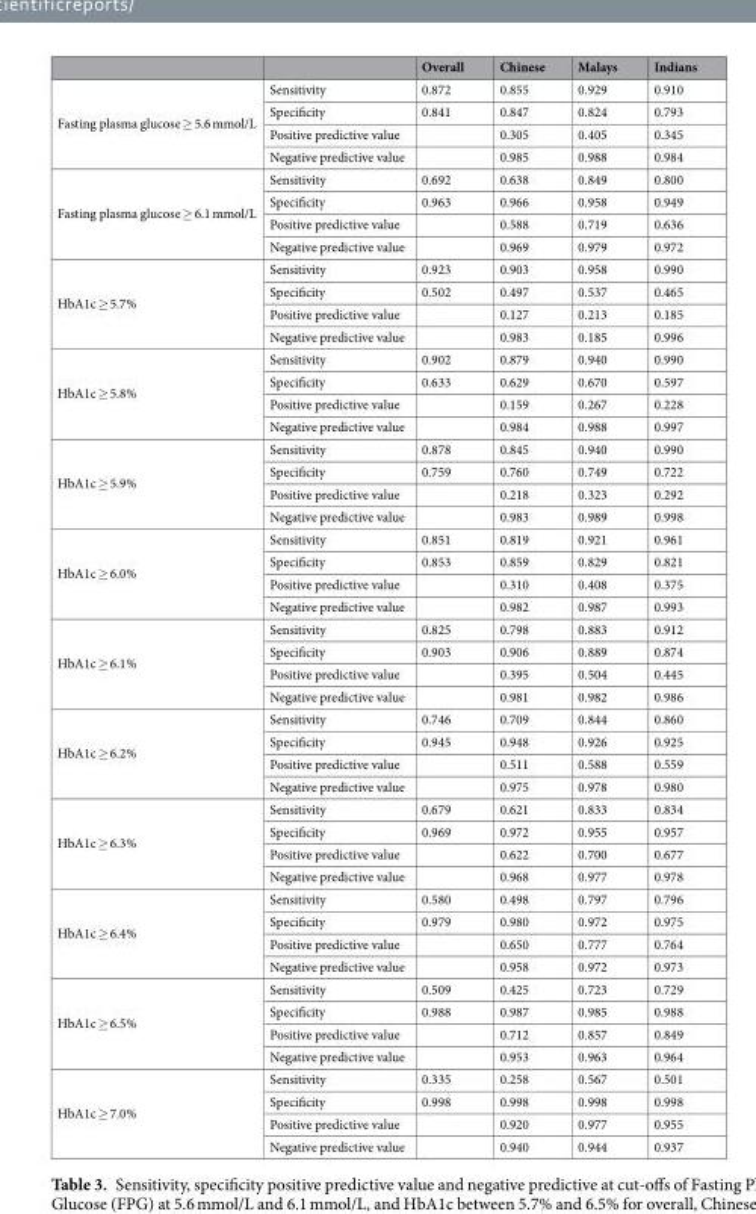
<table><thead><tr><td></td><td></td><td>Overall</td><td>Chinese</td><td>Malays</td><td>Indians</td></tr></thead><tbody><tr><td rowspan="4">Fasting plasma glucose ≥ 5.6 mmol/L</td><td>Sensitivity</td><td>0.872</td><td>0.855</td><td>0.929</td><td>0.910</td></tr><tr><td>Specificity</td><td>0.841</td><td>0.847</td><td>0.824</td><td>0.793</td></tr><tr><td>Positive predictive value</td><td></td><td>0.305</td><td>0.405</td><td>0.345</td></tr><tr><td>Negative predictive value</td><td></td><td>0.985</td><td>0.988</td><td>0.984</td></tr><tr><td rowspan="4">Fasting plasma glucose ≥ 6.1 mmol/L</td><td>Sensitivity</td><td>0.692</td><td>0.638</td><td>0.849</td><td>0.800</td></tr><tr><td>Specificity</td><td>0.963</td><td>0.966</td><td>0.958</td><td>0.949</td></tr><tr><td>Positive predictive value</td><td></td><td>0.588</td><td>0.719</td><td>0.636</td></tr><tr><td>Negative predictive value</td><td></td><td>0.969</td><td>0.979</td><td>0.972</td></tr><tr><td rowspan="4">HbA1c ≥ 5.7%</td><td>Sensitivity</td><td>0.923</td><td>0.903</td><td>0.958</td><td>0.990</td></tr><tr><td>Specificity</td><td>0.502</td><td>0.497</td><td>0.537</td><td>0.465</td></tr><tr><td>Positive predictive value</td><td></td><td>0.127</td><td>0.213</td><td>0.185</td></tr><tr><td>Negative predictive value</td><td></td><td>0.983</td><td>0.185</td><td>0.996</td></tr><tr><td rowspan="4">HbA1c ≥ 5.8%</td><td>Sensitivity</td><td>0.902</td><td>0.879</td><td>0.940</td><td>0.990</td></tr><tr><td>Specificity</td><td>0.633</td><td>0.629</td><td>0.670</td><td>0.597</td></tr><tr><td>Positive predictive value</td><td></td><td>0.159</td><td>0.267</td><td>0.228</td></tr><tr><td>Negative predictive value</td><td></td><td>0.984</td><td>0.988</td><td>0.997</td></tr><tr><td rowspan="4">HbA1c ≥ 5.9%</td><td>Sensitivity</td><td>0.878</td><td>0.845</td><td>0.940</td><td>0.990</td></tr><tr><td>Specificity</td><td>0.759</td><td>0.760</td><td>0.749</td><td>0.722</td></tr><tr><td>Positive predictive value</td><td></td><td>0.218</td><td>0.323</td><td>0.292</td></tr><tr><td>Negative predictive value</td><td></td><td>0.983</td><td>0.989</td><td>0.998</td></tr><tr><td rowspan="4">HbA1c ≥ 6.0%</td><td>Sensitivity</td><td>0.851</td><td>0.819</td><td>0.921</td><td>0.961</td></tr><tr><td>Specificity</td><td>0.853</td><td>0.859</td><td>0.829</td><td>0.821</td></tr><tr><td>Positive predictive value</td><td></td><td>0.310</td><td>0.408</td><td>0.375</td></tr><tr><td>Negative predictive value</td><td></td><td>0.982</td><td>0.987</td><td>0.993</td></tr><tr><td rowspan="4">HbA1c ≥ 6.1%</td><td>Sensitivity</td><td>0.825</td><td>0.798</td><td>0.883</td><td>0.912</td></tr><tr><td>Specificity</td><td>0.903</td><td>0.906</td><td>0.889</td><td>0.874</td></tr><tr><td>Positive predictive value</td><td></td><td>0.395</td><td>0.504</td><td>0.445</td></tr><tr><td>Negative predictive value</td><td></td><td>0.981</td><td>0.982</td><td>0.986</td></tr><tr><td rowspan="4">HbA1c ≥ 6.2%</td><td>Sensitivity</td><td>0.746</td><td>0.709</td><td>0.844</td><td>0.860</td></tr><tr><td>Specificity</td><td>0.945</td><td>0.948</td><td>0.926</td><td>0.925</td></tr><tr><td>Positive predictive value</td><td></td><td>0.511</td><td>0.588</td><td>0.559</td></tr><tr><td>Negative predictive value</td><td></td><td>0.975</td><td>0.978</td><td>0.980</td></tr><tr><td rowspan="4">HbA1c ≥ 6.3%</td><td>Sensitivity</td><td>0.679</td><td>0.621</td><td>0.833</td><td>0.834</td></tr><tr><td>Specificity</td><td>0.969</td><td>0.972</td><td>0.955</td><td>0.957</td></tr><tr><td>Positive predictive value</td><td></td><td>0.622</td><td>0.700</td><td>0.677</td></tr><tr><td>Negative predictive value</td><td></td><td>0.968</td><td>0.977</td><td>0.978</td></tr><tr><td rowspan="4">HbA1c ≥ 6.4%</td><td>Sensitivity</td><td>0.580</td><td>0.498</td><td>0.797</td><td>0.796</td></tr><tr><td>Specificity</td><td>0.979</td><td>0.980</td><td>0.972</td><td>0.975</td></tr><tr><td>Positive predictive value</td><td></td><td>0.650</td><td>0.777</td><td>0.764</td></tr><tr><td>Negative predictive value</td><td></td><td>0.958</td><td>0.972</td><td>0.973</td></tr><tr><td rowspan="4">HbA1c ≥ 6.5%</td><td>Sensitivity</td><td>0.509</td><td>0.425</td><td>0.723</td><td>0.729</td></tr><tr><td>Specificity</td><td>0.988</td><td>0.987</td><td>0.985</td><td>0.988</td></tr><tr><td>Positive predictive value</td><td></td><td>0.712</td><td>0.857</td><td>0.849</td></tr><tr><td>Negative predictive value</td><td></td><td>0.953</td><td>0.963</td><td>0.964</td></tr><tr><td rowspan="4">HbA1c ≥ 7.0%</td><td>Sensitivity</td><td>0.335</td><td>0.258</td><td>0.567</td><td>0.501</td></tr><tr><td>Specificity</td><td>0.998</td><td>0.998</td><td>0.998</td><td>0.998</td></tr><tr><td>Positive predictive value</td><td></td><td>0.920</td><td>0.977</td><td>0.955</td></tr><tr><td>Negative predictive value</td><td></td><td>0.940</td><td>0.944</td><td>0.937</td></tr></tbody></table>